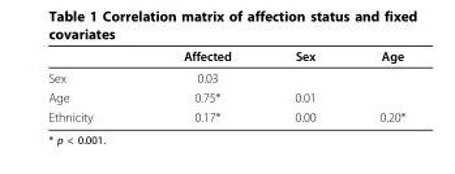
<table><thead><tr><td></td><td>Affected</td><td>Sex</td><td>Age</td></tr></thead><tbody><tr><td>Sex</td><td>0.03</td><td></td><td></td></tr><tr><td>Age</td><td>0.75*</td><td>0.01</td><td></td></tr><tr><td>Ethnicity</td><td>0.17*</td><td>0.00</td><td>0.20*</td></tr></tbody></table>